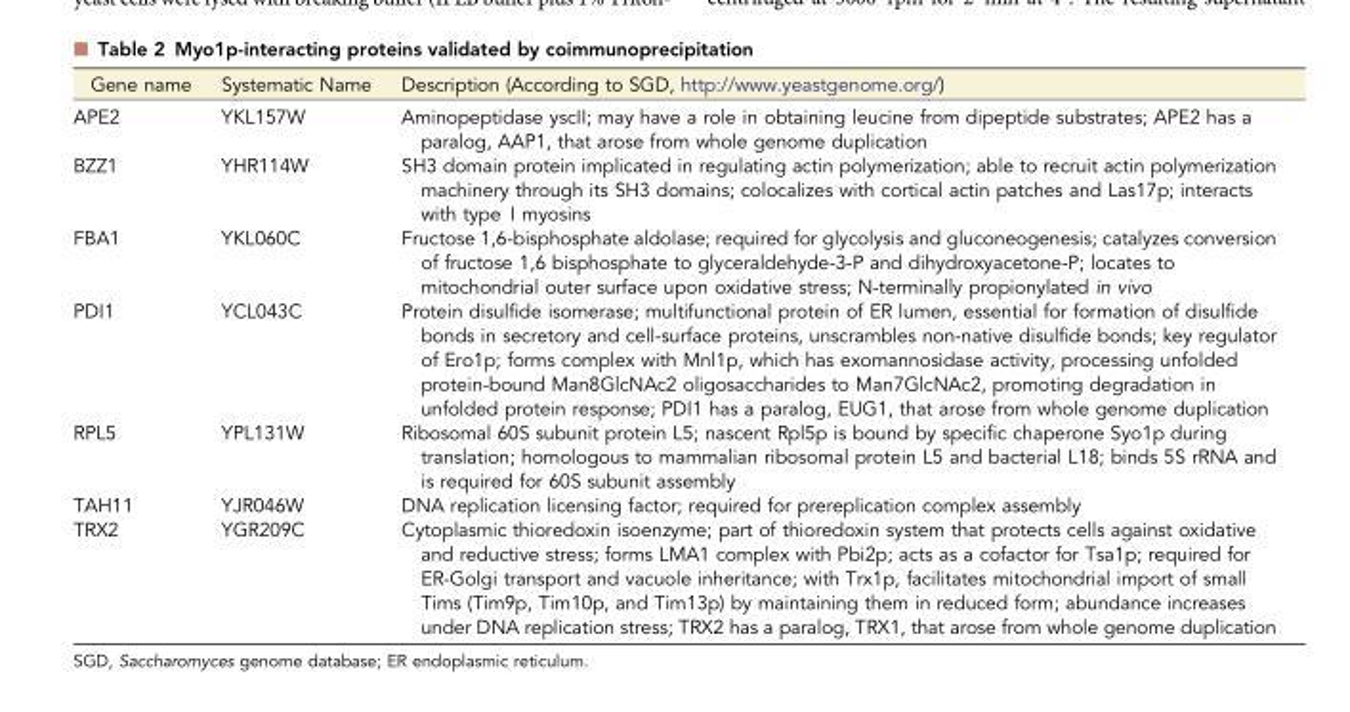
<table><thead><tr><td>Gene name</td><td>Systematic Name</td><td>Description (According to SGD, http://www.yeastgenome.org/)</td></tr></thead><tbody><tr><td>APE2</td><td>YKL157W</td><td>Aminopeptidase yscII; may have a role in obtaining leucine from dipeptide substrates; APE2 has a paralog, AAP1, that arose from whole genome duplication</td></tr><tr><td>BZZ1</td><td>YHR114W</td><td>SH3 domain protein implicated in regulating actin polymerization; able to recruit actin polymerization machinery through its SH3 domains; colocalizes with cortical actin patches and Las17p; interacts with type I myosins</td></tr><tr><td>FBA1</td><td>YKL060C</td><td>Fructose 1,6-bisphosphate aldolase; required for glycolysis and gluconeogenesis; catalyzes conversion of fructose 1,6 bisphosphate to glyceraldehyde-3-P and dihydroxyacetone-P; locates to mitochondrial outer surface upon oxidative stress; N-terminally propionylated in vivo</td></tr><tr><td>PDI1</td><td>YCL043C</td><td>Protein disulfide isomerase; multifunctional protein of ER lumen, essential for formation of disulfide bonds in secretory and cell-surface proteins, unscrambles non-native disulfide bonds; key regulator of Ero1p; forms complex with Mnl1p, which has exomannosidase activity, processing unfolded protein-bound Man8GlcNAc2 oligosaccharides to Man7GlcNAc2, promoting degradation in unfolded protein response; PDI1 has a paralog, EUG1, that arose from whole genome duplication</td></tr><tr><td>RPL5</td><td>YPL131W</td><td>Ribosomal 60S subunit protein L5; nascent Rpl5p is bound by specific chaperone Syo1p during translation; homologous to mammalian ribosomal protein L5 and bacterial L18; binds 5S rRNA and is required for 60S subunit assembly</td></tr><tr><td>TAH11</td><td>YJR046W</td><td>DNA replication licensing factor; required for prereplication complex assembly</td></tr><tr><td>TRX2</td><td>YGR209C</td><td>Cytoplasmic thioredoxin isoenzyme; part of thioredoxin system that protects cells against oxidative and reductive stress; forms LMA1 complex with Pbi2p; acts as a cofactor for Tsa1p; required for ER-Golgi transport and vacuole inheritance; with Trx1p, facilitates mitochondrial import of small Tims (Tim9p, Tim10p, and Tim13p) by maintaining them in reduced form; abundance increases under DNA replication stress; TRX2 has a paralog, TRX1, that arose from whole genome duplication</td></tr></tbody></table>